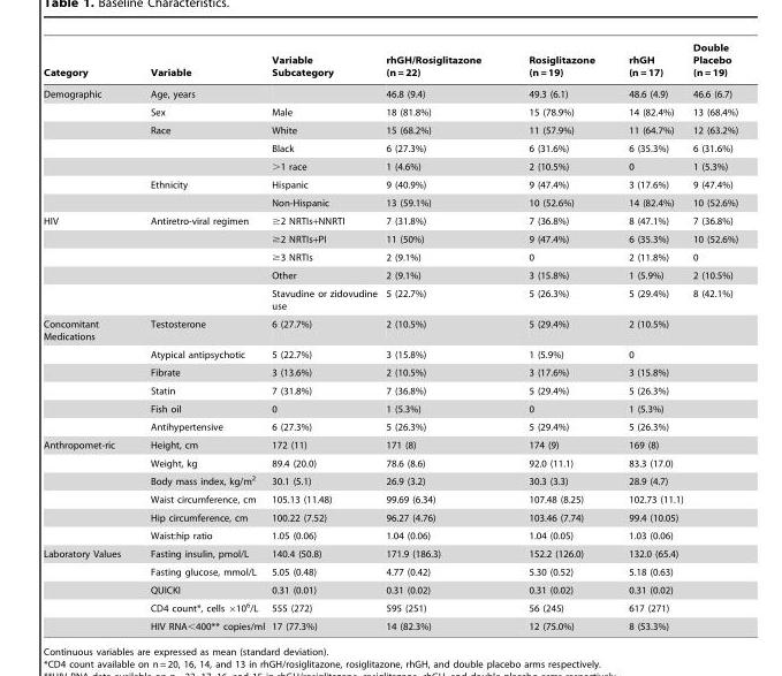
<table><thead><tr><td>Category</td><td>Variable</td><td>Variable Subcategory</td><td>rhGH/Rosiglitazone (n = 22)</td><td>Rosiglitazone (n = 19)</td><td>rhGH (n = 17)</td><td>Double Placebo (n = 19)</td></tr></thead><tbody><tr><td rowspan="7">Demographic</td><td>Age, years</td><td></td><td>46.8 (9.4)</td><td>49.3 (6.1)</td><td>48.6 (4.9)</td><td>46.6 (6.7)</td></tr><tr><td>Sex</td><td>Male</td><td>18 (81.8%)</td><td>15 (78.9%)</td><td>14 (82.4%)</td><td>13 (68.4%)</td></tr><tr><td>Race</td><td>White</td><td>15 (68.2%)</td><td>11 (57.9%)</td><td>11 (64.7%)</td><td>12 (63.2%)</td></tr><tr><td></td><td>Black</td><td>6 (27.3%)</td><td>6 (31.6%)</td><td>6 (35.3%)</td><td>6 (31.6%)</td></tr><tr><td></td><td>&gt;1 race</td><td>1 (4.6%)</td><td>2 (10.5%)</td><td>0</td><td>1 (5.3%)</td></tr><tr><td>Ethnicity</td><td>Hispanic</td><td>9 (40.9%)</td><td>9 (47.4%)</td><td>3 (17.6%)</td><td>9 (47.4%)</td></tr><tr><td></td><td>Non-Hispanic</td><td>13 (59.1%)</td><td>10 (52.6%)</td><td>14 (82.4%)</td><td>10 (52.6%)</td></tr><tr><td rowspan="5">HIV</td><td>Antiretro-viral regimen</td><td>≥2 NRTIs+NNRTI</td><td>7 (31.8%)</td><td>7 (36.8%)</td><td>8 (47.1%)</td><td>7 (36.8%)</td></tr><tr><td></td><td>≥2 NRTIs+PI</td><td>11 (50%)</td><td>9 (47.4%)</td><td>6 (35.3%)</td><td>10 (52.6%)</td></tr><tr><td></td><td>≥3 NRTIs</td><td>2 (9.1%)</td><td>0</td><td>2 (11.8%)</td><td>0</td></tr><tr><td></td><td>Other</td><td>2 (9.1%)</td><td>3 (15.8%)</td><td>1 (5.9%)</td><td>2 (10.5%)</td></tr><tr><td></td><td>Stavudine or zidovudine use</td><td>5 (22.7%)</td><td>5 (26.3%)</td><td>5 (29.4%)</td><td>8 (42.1%)</td></tr><tr><td rowspan="6">Concomitant Medications</td><td>Testosterone</td><td>6 (27.7%)</td><td>2 (10.5%)</td><td>5 (29.4%)</td><td>2 (10.5%)</td><td></td></tr><tr><td>Atypical antipsychotic</td><td>5 (22.7%)</td><td>3 (15.8%)</td><td>1 (5.9%)</td><td>0</td><td></td></tr><tr><td>Fibrate</td><td>3 (13.6%)</td><td>2 (10.5%)</td><td>3 (17.6%)</td><td>3 (15.8%)</td><td></td></tr><tr><td>Statin</td><td>7 (31.8%)</td><td>7 (36.8%)</td><td>5 (29.4%)</td><td>5 (26.3%)</td><td></td></tr><tr><td>Fish oil</td><td>0</td><td>1 (5.3%)</td><td>0</td><td>1 (5.3%)</td><td></td></tr><tr><td>Antihypertensive</td><td>6 (27.3%)</td><td>5 (26.3%)</td><td>5 (29.4%)</td><td>5 (26.3%)</td><td></td></tr><tr><td rowspan="6">Anthropomet-ric</td><td>Height, cm</td><td>172 (11)</td><td>171 (8)</td><td>174 (9)</td><td>169 (8)</td><td></td></tr><tr><td>Weight, kg</td><td>89.4 (20.0)</td><td>78.6 (8.6)</td><td>92.0 (11.1)</td><td>83.3 (17.0)</td><td></td></tr><tr><td>Body mass index, kg/m<sup>2</sup></td><td>30.1 (5.1)</td><td>26.9 (3.2)</td><td>30.3 (3.3)</td><td>28.9 (4.7)</td><td></td></tr><tr><td>Waist circumference, cm</td><td>105.13 (11.48)</td><td>99.69 (6.34)</td><td>107.48 (8.25)</td><td>102.73 (11.1)</td><td></td></tr><tr><td>Hip circumference, cm</td><td>100.22 (7.52)</td><td>96.27 (4.76)</td><td>103.46 (7.74)</td><td>99.4 (10.05)</td><td></td></tr><tr><td>Waist:hip ratio</td><td>1.05 (0.06)</td><td>1.04 (0.06)</td><td>1.04 (0.05)</td><td>1.03 (0.06)</td><td></td></tr><tr><td rowspan="5">Laboratory Values</td><td>Fasting insulin, pmol/L</td><td>140.4 (50.8)</td><td>171.9 (186.3)</td><td>152.2 (126.0)</td><td>132.0 (65.4)</td><td></td></tr><tr><td>Fasting glucose, mmol/L</td><td>5.05 (0.48)</td><td>4.77 (0.42)</td><td>5.30 (0.52)</td><td>5.18 (0.63)</td><td></td></tr><tr><td>QUICKI</td><td>0.31 (0.01)</td><td>0.31 (0.02)</td><td>0.31 (0.02)</td><td>0.31 (0.02)</td><td></td></tr><tr><td>CD4 count*, cells ×10<sup>6</sup>/L</td><td>555 (272)</td><td>595 (251)</td><td>56 (245)</td><td>617 (271)</td><td></td></tr><tr><td>HIV RNA&lt;400** copies/ml</td><td>17 (77.3%)</td><td>14 (82.3%)</td><td>12 (75.0%)</td><td>8 (53.3%)</td><td></td></tr></tbody></table>